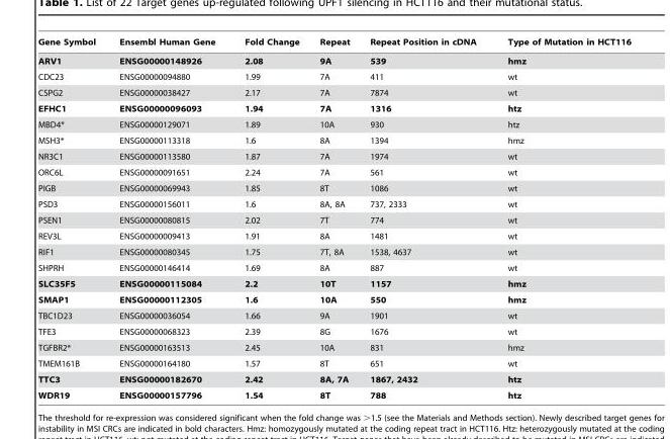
<table><thead><tr><td>Gene Symbol</td><td>Ensembl Human Gene</td><td>Fold Change</td><td>Repeat</td><td>Repeat Position in cDNA</td><td>Type of Mutation in HCT116</td></tr></thead><tbody><tr><td>ARV1</td><td>ENSG00000148926</td><td>2.08</td><td>9A</td><td>539</td><td>hmz</td></tr><tr><td>CDC23</td><td>ENSG00000094880</td><td>1.99</td><td>7A</td><td>411</td><td>wt</td></tr><tr><td>CSPG2</td><td>ENSG00000038427</td><td>2.17</td><td>7A</td><td>7874</td><td>wt</td></tr><tr><td>EFHC1</td><td>ENSG00000096093</td><td>1.94</td><td>7A</td><td>1316</td><td>htz</td></tr><tr><td>MBD4*</td><td>ENSG00000129071</td><td>1.89</td><td>10A</td><td>930</td><td>htz</td></tr><tr><td>MSH3*</td><td>ENSG00000113318</td><td>1.6</td><td>8A</td><td>1394</td><td>hmz</td></tr><tr><td>NR3C1</td><td>ENSG00000113580</td><td>1.87</td><td>7A</td><td>1974</td><td>wt</td></tr><tr><td>ORC6L</td><td>ENSG00000091651</td><td>2.24</td><td>7A</td><td>561</td><td>wt</td></tr><tr><td>PIGB</td><td>ENSG00000069943</td><td>1.85</td><td>8T</td><td>1086</td><td>wt</td></tr><tr><td>PSD3</td><td>ENSG00000156011</td><td>1.6</td><td>8A, 8A</td><td>737, 2333</td><td>wt</td></tr><tr><td>PSEN1</td><td>ENSG00000080815</td><td>2.02</td><td>7T</td><td>774</td><td>wt</td></tr><tr><td>REV3L</td><td>ENSG00000009413</td><td>1.91</td><td>8A</td><td>1481</td><td>wt</td></tr><tr><td>RIF1</td><td>ENSG00000080345</td><td>1.75</td><td>7T, 8A</td><td>1538, 4637</td><td>wt</td></tr><tr><td>SHPRH</td><td>ENSG00000146414</td><td>1.69</td><td>8A</td><td>887</td><td>wt</td></tr><tr><td>SLC35F5</td><td>ENSG00000115084</td><td>2.2</td><td>10T</td><td>1157</td><td>hmz</td></tr><tr><td>SMAP1</td><td>ENSG00000112305</td><td>1.6</td><td>10A</td><td>550</td><td>hmz</td></tr><tr><td>TBC1D23</td><td>ENSG00000036054</td><td>1.66</td><td>9A</td><td>1901</td><td>wt</td></tr><tr><td>TFE3</td><td>ENSG00000068323</td><td>2.39</td><td>8G</td><td>1676</td><td>wt</td></tr><tr><td>TGFBR2*</td><td>ENSG00000163513</td><td>2.45</td><td>10A</td><td>831</td><td>hmz</td></tr><tr><td>TMEM161B</td><td>ENSG00000164180</td><td>1.57</td><td>8T</td><td>651</td><td>wt</td></tr><tr><td>TTC3</td><td>ENSG00000182670</td><td>2.42</td><td>8A, 7A</td><td>1867, 2432</td><td>htz</td></tr><tr><td>WDR19</td><td>ENSG00000157796</td><td>1.54</td><td>8T</td><td>788</td><td>htz</td></tr></tbody></table>